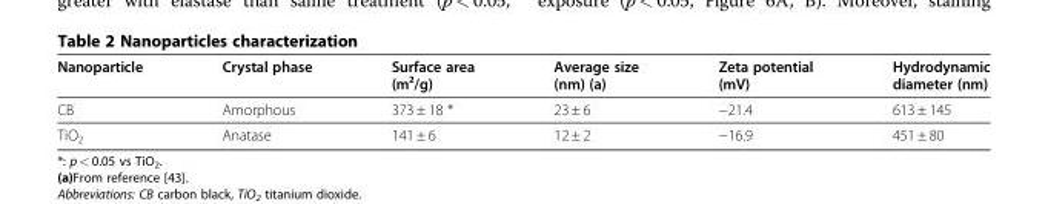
<table><thead><tr><td>Nanoparticle</td><td>Crystal phase</td><td>Surface area (m²/g)</td><td>Average size (nm) (a)</td><td>Zeta potential (mV)</td><td>Hydrodynamic diameter (nm)</td></tr></thead><tbody><tr><td>CB</td><td>Amorphous</td><td>373 ± 18 *</td><td>23 ± 6</td><td>−21.4</td><td>613 ± 145</td></tr><tr><td>TiO<sub>2</sub></td><td>Anatase</td><td>141 ± 6</td><td>12 ± 2</td><td>−16.9</td><td>451 ± 80</td></tr></tbody></table>